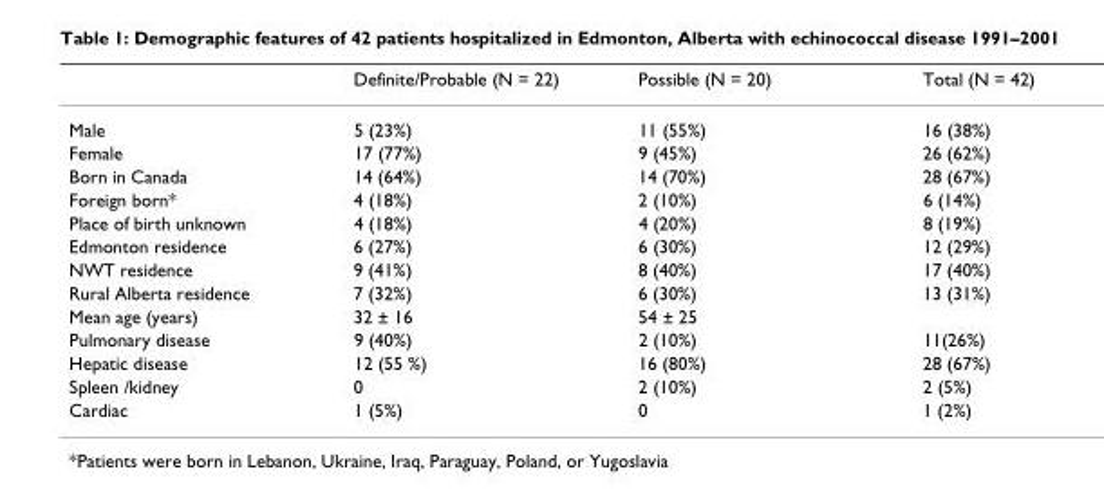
<table><thead><tr><td></td><td>Definite/Probable (N = 22)</td><td>Possible (N = 20)</td><td>Total (N = 42)</td></tr></thead><tbody><tr><td>Male</td><td>5 (23%)</td><td>11 (55%)</td><td>16 (38%)</td></tr><tr><td>Female</td><td>17 (77%)</td><td>9 (45%)</td><td>26 (62%)</td></tr><tr><td>Born in Canada</td><td>14 (64%)</td><td>14 (70%)</td><td>28 (67%)</td></tr><tr><td>Foreign born*</td><td>4 (18%)</td><td>2 (10%)</td><td>6 (14%)</td></tr><tr><td>Place of birth unknown</td><td>4 (18%)</td><td>4 (20%)</td><td>8 (19%)</td></tr><tr><td>Edmonton residence</td><td>6 (27%)</td><td>6 (30%)</td><td>12 (29%)</td></tr><tr><td>NWT residence</td><td>9 (41%)</td><td>8 (40%)</td><td>17 (40%)</td></tr><tr><td>Rural Alberta residence</td><td>7 (32%)</td><td>6 (30%)</td><td>13 (31%)</td></tr><tr><td>Mean age (years)</td><td>32 ± 16</td><td>54 ± 25</td><td></td></tr><tr><td>Pulmonary disease</td><td>9 (40%)</td><td>2 (10%)</td><td>11(26%)</td></tr><tr><td>Hepatic disease</td><td>12 (55 %)</td><td>16 (80%)</td><td>28 (67%)</td></tr><tr><td>Spleen /kidney</td><td>0</td><td>2 (10%)</td><td>2 (5%)</td></tr><tr><td>Cardiac</td><td>1 (5%)</td><td>0</td><td>1 (2%)</td></tr></tbody></table>